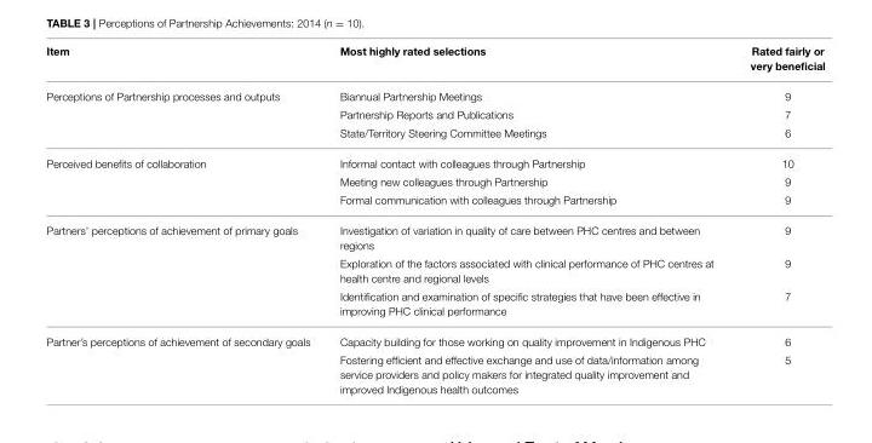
<table><thead><tr><td>Item</td><td>Most highly rated selections</td><td>Rated fairly or very beneficial</td></tr></thead><tbody><tr><td rowspan="3">Perceptions of Partnership processes and outputs</td><td>Biannual Partnership Meetings</td><td>9</td></tr><tr><td>Partnership Reports and Publications</td><td>7</td></tr><tr><td>State/Territory Steering Committee Meetings</td><td>6</td></tr><tr><td rowspan="3">Perceived benefits of collaboration</td><td>Informal contact with colleagues through Partnership</td><td>10</td></tr><tr><td>Meeting new colleagues through Partnership</td><td>9</td></tr><tr><td>Formal communication with colleagues through Partnership</td><td>9</td></tr><tr><td rowspan="3">Partners’ perceptions of achievement of primary goals</td><td>Investigation of variation in quality of care between PHC centres and between regions</td><td>9</td></tr><tr><td>Exploration of the factors associated with clinical performance of PHC centres at health centre and regional levels</td><td>9</td></tr><tr><td>Identification and examination of specific strategies that have been effective in improving PHC clinical performance</td><td>7</td></tr><tr><td rowspan="2">Partner’s perceptions of achievement of secondary goals</td><td>Capacity building for those working on quality improvement in Indigenous PHC</td><td>6</td></tr><tr><td>Fostering efficient and effective exchange and use of data/information among service providers and policy makers for integrated quality improvement and improved Indigenous health outcomes</td><td>5</td></tr></tbody></table>